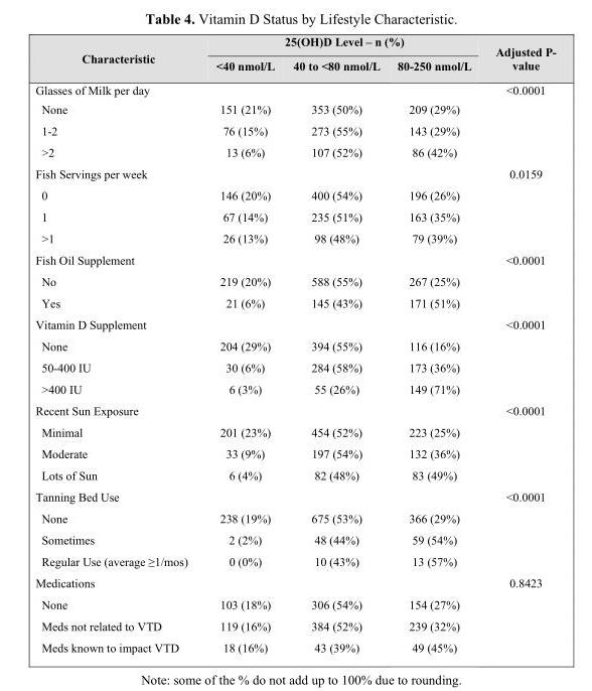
<table><thead><tr><td rowspan="2">Characteristic</td><td colspan="3">25(OH)D Level – n (%)</td><td rowspan="2">Adjusted P- value</td></tr><tr><td>&lt;40 nmol/L</td><td>40 to &lt;80 nmol/L</td><td>80-250 nmol/L</td></tr></thead><tbody><tr><td>Glasses of Milk per day</td><td></td><td></td><td></td><td>&lt;0.0001</td></tr><tr><td>None</td><td>151 (21%)</td><td>353 (50%)</td><td>209 (29%)</td><td></td></tr><tr><td>1-2</td><td>76 (15%)</td><td>273 (55%)</td><td>143 (29%)</td><td></td></tr><tr><td>&gt;2</td><td>13 (6%)</td><td>107 (52%)</td><td>86 (42%)</td><td></td></tr><tr><td>Fish Servings per week</td><td></td><td></td><td></td><td>0.0159</td></tr><tr><td>0</td><td>146 (20%)</td><td>400 (54%)</td><td>196 (26%)</td><td></td></tr><tr><td>1</td><td>67 (14%)</td><td>235 (51%)</td><td>163 (35%)</td><td></td></tr><tr><td>&gt;1</td><td>26 (13%)</td><td>98 (48%)</td><td>79 (39%)</td><td></td></tr><tr><td>Fish Oil Supplement</td><td></td><td></td><td></td><td>&lt;0.0001</td></tr><tr><td>No</td><td>219 (20%)</td><td>588 (55%)</td><td>267 (25%)</td><td></td></tr><tr><td>Yes</td><td>21 (6%)</td><td>145 (43%)</td><td>171 (51%)</td><td></td></tr><tr><td>Vitamin D Supplement</td><td></td><td></td><td></td><td>&lt;0.0001</td></tr><tr><td>None</td><td>204 (29%)</td><td>394 (55%)</td><td>116 (16%)</td><td></td></tr><tr><td>50-400 IU</td><td>30 (6%)</td><td>284 (58%)</td><td>173 (36%)</td><td></td></tr><tr><td>&gt;400 IU</td><td>6 (3%)</td><td>55 (26%)</td><td>149 (71%)</td><td></td></tr><tr><td>Recent Sun Exposure</td><td></td><td></td><td></td><td>&lt;0.0001</td></tr><tr><td>Minimal</td><td>201 (23%)</td><td>454 (52%)</td><td>223 (25%)</td><td></td></tr><tr><td>Moderate</td><td>33 (9%)</td><td>197 (54%)</td><td>132 (36%)</td><td></td></tr><tr><td>Lots of Sun</td><td>6 (4%)</td><td>82 (48%)</td><td>83 (49%)</td><td></td></tr><tr><td>Tanning Bed Use</td><td></td><td></td><td></td><td>&lt;0.0001</td></tr><tr><td>None</td><td>238 (19%)</td><td>675 (53%)</td><td>366 (29%)</td><td></td></tr><tr><td>Sometimes</td><td>2 (2%)</td><td>48 (44%)</td><td>59 (54%)</td><td></td></tr><tr><td>Regular Use (average ≥1/mos)</td><td>0 (0%)</td><td>10 (43%)</td><td>13 (57%)</td><td></td></tr><tr><td>Medications</td><td></td><td></td><td></td><td>0.8423</td></tr><tr><td>None</td><td>103 (18%)</td><td>306 (54%)</td><td>154 (27%)</td><td></td></tr><tr><td>Meds not related to VTD</td><td>119 (16%)</td><td>384 (52%)</td><td>239 (32%)</td><td></td></tr><tr><td>Meds known to impact VTD</td><td>18 (16%)</td><td>43 (39%)</td><td>49 (45%)</td><td></td></tr></tbody></table>